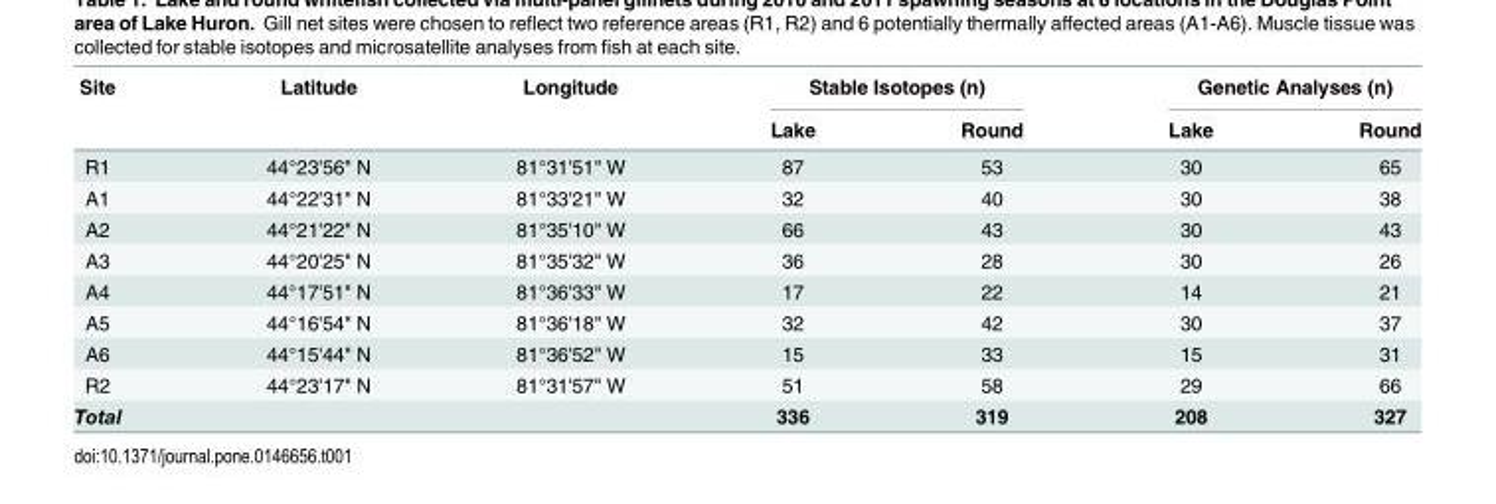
<table><thead><tr><td rowspan="3">Site R1</td><td rowspan="3">Latitude 44°23&#x27;56&quot; N</td><td rowspan="3">Longitude 81°31&#x27;51&quot; W</td><td colspan="2">Stable Isotopes (n)</td><td colspan="2">Genetic Analyses (n)</td></tr><tr><td rowspan="2">Lake 87</td><td rowspan="2">Round 53</td><td rowspan="2">Lake 30</td><td rowspan="2">Round 65</td></tr><tr></tr></thead><tbody><tr><td>A1</td><td>44°22&#x27;31&quot; N</td><td>81°33&#x27;21&quot; W</td><td>32</td><td>40</td><td>30</td><td>38</td></tr><tr><td>A2</td><td>44°21&#x27;22&quot; N</td><td>81°35&#x27;10&quot; W</td><td>66</td><td>43</td><td>30</td><td>43</td></tr><tr><td>A3</td><td>44°20&#x27;25&quot; N</td><td>81°35&#x27;32&quot; W</td><td>36</td><td>28</td><td>30</td><td>26</td></tr><tr><td>A4</td><td>44°17&#x27;51&quot; N</td><td>81°36&#x27;33&quot; W</td><td>17</td><td>22</td><td>14</td><td>21</td></tr><tr><td>A5</td><td>44°16&#x27;54&quot; N</td><td>81°36&#x27;18&quot; W</td><td>32</td><td>42</td><td>30</td><td>37</td></tr><tr><td>A6</td><td>44°15&#x27;44&quot; N</td><td>81°36&#x27;52&quot; W</td><td>15</td><td>33</td><td>15</td><td>31</td></tr><tr><td>R2</td><td>44°23&#x27;17&quot; N</td><td>81°31&#x27;57&quot; W</td><td>51</td><td>58</td><td>29</td><td>66</td></tr><tr><td>Total</td><td></td><td></td><td>336</td><td>319</td><td>208</td><td>327</td></tr></tbody></table>